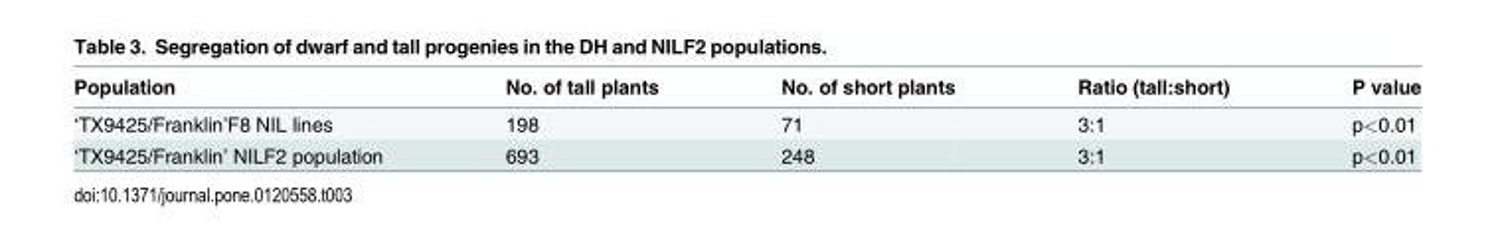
<table><thead><tr><td>Population</td><td>No. of tall plants</td><td>No. of short plants</td><td>Ratio (tall:short)</td><td>P value</td></tr></thead><tbody><tr><td>‘TX9425/Franklin’F8 NIL lines</td><td>198</td><td>71</td><td>3:1</td><td>p&lt;0.01</td></tr><tr><td>‘TX9425/Franklin’ NILF2 population</td><td>693</td><td>248</td><td>3:1</td><td>p&lt;0.01</td></tr></tbody></table>